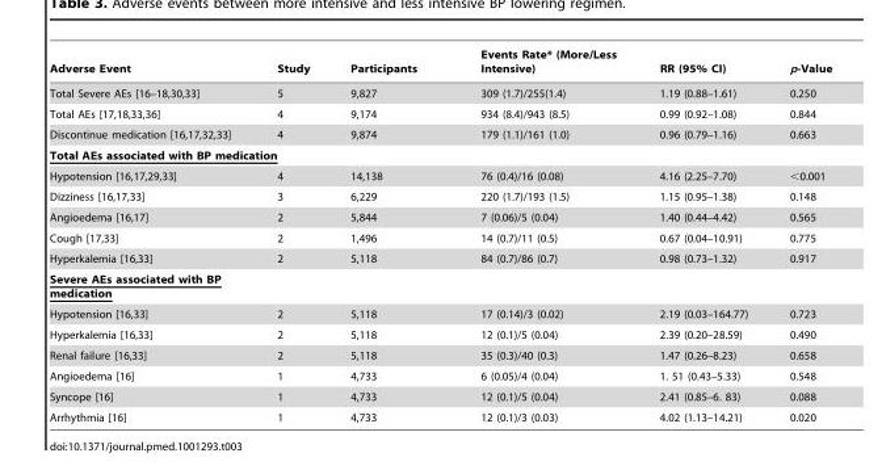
<table><thead><tr><td>Adverse Event</td><td>Study</td><td>Participants</td><td>Events Rate* (More/Less Intensive)</td><td>RR (95% CI)</td><td>p-Value</td></tr></thead><tbody><tr><td>Total Severe AEs [16–18,30,33]</td><td>5</td><td>9,827</td><td>309 (1.7)/255(1.4)</td><td>1.19 (0.88–1.61)</td><td>0.250</td></tr><tr><td>Total AEs [17,18,33,36]</td><td>4</td><td>9,174</td><td>934 (8.4)/943 (8.5)</td><td>0.99 (0.92–1.08)</td><td>0.844</td></tr><tr><td>Discontinue medication [16,17,32,33]</td><td>4</td><td>9,874</td><td>179 (1.1)/161 (1.0)</td><td>0.96 (0.79–1.16)</td><td>0.663</td></tr><tr><td colspan="6">Total AEs associated with BP medication</td></tr><tr><td>Hypotension [16,17,29,33]</td><td>4</td><td>14,138</td><td>76 (0.4)/16 (0.08)</td><td>4.16 (2.25–7.70)</td><td>&lt;0.001</td></tr><tr><td>Dizziness [16,17,33]</td><td>3</td><td>6,229</td><td>220 (1.7)/193 (1.5)</td><td>1.15 (0.95–1.38)</td><td>0.148</td></tr><tr><td>Angioedema [16,17]</td><td>2</td><td>5,844</td><td>7 (0.06)/5 (0.04)</td><td>1.40 (0.44–4.42)</td><td>0.565</td></tr><tr><td>Cough [17,33]</td><td>2</td><td>1,496</td><td>14 (0.7)/11 (0.5)</td><td>0.67 (0.04–10.91)</td><td>0.775</td></tr><tr><td>Hyperkalemia [16,33]</td><td>2</td><td>5,118</td><td>84 (0.7)/86 (0.7)</td><td>0.98 (0.73–1.32)</td><td>0.917</td></tr><tr><td colspan="6">Severe AEs associated with BP medication</td></tr><tr><td>Hypotension [16,33]</td><td>2</td><td>5,118</td><td>17 (0.14)/3 (0.02)</td><td>2.19 (0.03–164.77)</td><td>0.723</td></tr><tr><td>Hyperkalemia [16,33]</td><td>2</td><td>5,118</td><td>12 (0.1)/5 (0.04)</td><td>2.39 (0.20–28.59)</td><td>0.490</td></tr><tr><td>Renal failure [16,33]</td><td>2</td><td>5,118</td><td>35 (0.3)/40 (0.3)</td><td>1.47 (0.26–8.23)</td><td>0.658</td></tr><tr><td>Angioedema [16]</td><td>1</td><td>4,733</td><td>6 (0.05)/4 (0.04)</td><td>1. 51 (0.43–5.33)</td><td>0.548</td></tr><tr><td>Syncope [16]</td><td>1</td><td>4,733</td><td>12 (0.1)/5 (0.04)</td><td>2.41 (0.85–6. 83)</td><td>0.088</td></tr><tr><td>Arrhythmia [16]</td><td>1</td><td>4,733</td><td>12 (0.1)/3 (0.03)</td><td>4.02 (1.13–14.21)</td><td>0.020</td></tr></tbody></table>